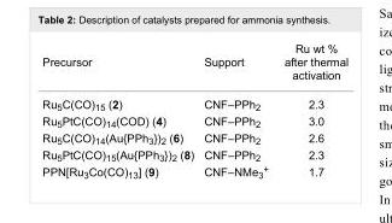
<table><tbody><tr><td>Precursor</td><td>Support</td><td>Ru wt % after thermal activation</td></tr><tr><td>Ru<sub>5</sub>C(CO)<sub>15</sub> (2)</td><td>CNF–PPh<sub>2</sub></td><td>2.3</td></tr><tr><td>Ru<sub>5</sub>PtC(CO)<sub>14</sub>(COD) (4)</td><td>CNF–PPh<sub>2</sub></td><td>3.0</td></tr><tr><td>Ru<sub>5</sub>C(CO)<sub>14</sub>(Au{PPh<sub>3</sub>})<sub>2</sub> (6)</td><td>CNF–PPh<sub>2</sub></td><td>2.6</td></tr><tr><td>Ru<sub>5</sub>PtC(CO)<sub>15</sub>(Au{PPh<sub>3</sub>})<sub>2</sub> (8)</td><td>CNF–PPh<sub>2</sub></td><td>2.3</td></tr><tr><td>PPN[Ru<sub>3</sub>Co(CO)<sub>13</sub>] (9)</td><td>CNF–NMe<sub>3</sub><sup>+</sup></td><td>1.7</td></tr></tbody></table>